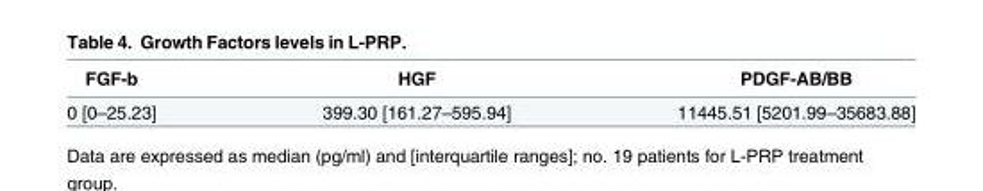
<table><thead><tr><td>FGF-b</td><td>HGF</td><td>PDGF-AB/BB</td></tr></thead><tbody><tr><td>0 [0–25.23]</td><td>399.30 [161.27–595.94]</td><td>11445.51 [5201.99–35683.88]</td></tr></tbody></table>